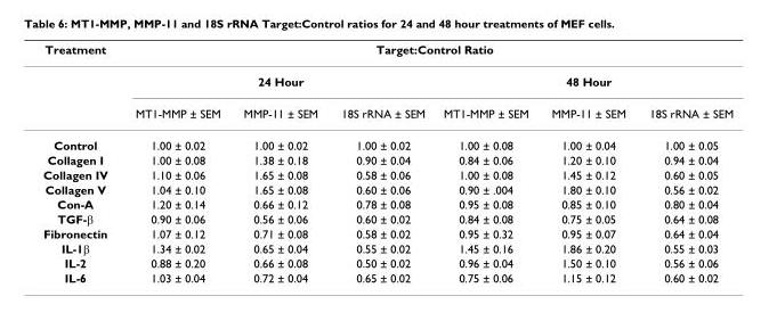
<table><thead><tr><td rowspan="3">Treatment</td><td colspan="6">Target:Control Ratio</td></tr><tr><td colspan="3">24 Hour</td><td colspan="3">48 Hour</td></tr><tr><td>MT1-MMP ± SEM</td><td>MMP-11 ± SEM</td><td>18S rRNA ± SEM</td><td>MT1-MMP ± SEM</td><td>MMP-11 ± SEM</td><td>18S rRNA ± SEM</td></tr></thead><tbody><tr><td>Control</td><td>1.00 ± 0.02</td><td>1.00 ± 0.02</td><td>1.00 ± 0.02</td><td>1.00 ± 0.08</td><td>1.00 ± 0.04</td><td>1.00 ± 0.05</td></tr><tr><td>Collagen I</td><td>1.00 ± 0.08</td><td>1.38 ± 0.18</td><td>0.90 ± 0.04</td><td>0.84 ± 0.06</td><td>1.20 ± 0.10</td><td>0.94 ± 0.04</td></tr><tr><td>Collagen IV</td><td>1.10 ± 0.06</td><td>1.65 ± 0.08</td><td>0.58 ± 0.06</td><td>1.00 ± 0.08</td><td>1.45 ± 0.12</td><td>0.60 ± 0.05</td></tr><tr><td>Collagen V</td><td>1.04 ± 0.10</td><td>1.65 ± 0.08</td><td>0.60 ± 0.06</td><td>0.90 ± .004</td><td>1.80 ± 0.10</td><td>0.56 ± 0.02</td></tr><tr><td>Con-A</td><td>1.20 ± 0.14</td><td>0.66 ± 0.12</td><td>0.78 ± 0.08</td><td>0.95 ± 0.08</td><td>0.85 ± 0.10</td><td>0.80 ± 0.04</td></tr><tr><td>TGF-β</td><td>0.90 ± 0.06</td><td>0.56 ± 0.06</td><td>0.60 ± 0.02</td><td>0.84 ± 0.08</td><td>0.75 ± 0.05</td><td>0.64 ± 0.08</td></tr><tr><td>Fibronectin</td><td>1.07 ± 0.12</td><td>0.71 ± 0.08</td><td>0.58 ± 0.02</td><td>0.95 ± 0.32</td><td>0.95 ± 0.07</td><td>0.64 ± 0.04</td></tr><tr><td>IL-1β</td><td>1.34 ± 0.02</td><td>0.65 ± 0.04</td><td>0.55 ± 0.02</td><td>1.45 ± 0.16</td><td>1.86 ± 0.20</td><td>0.55 ± 0.03</td></tr><tr><td>IL-2</td><td>0.88 ± 0.20</td><td>0.66 ± 0.08</td><td>0.50 ± 0.02</td><td>0.96 ± 0.04</td><td>1.50 ± 0.10</td><td>0.56 ± 0.06</td></tr><tr><td>IL-6</td><td>1.03 ± 0.04</td><td>0.72 ± 0.04</td><td>0.65 ± 0.02</td><td>0.75 ± 0.06</td><td>1.15 ± 0.12</td><td>0.60 ± 0.02</td></tr></tbody></table>